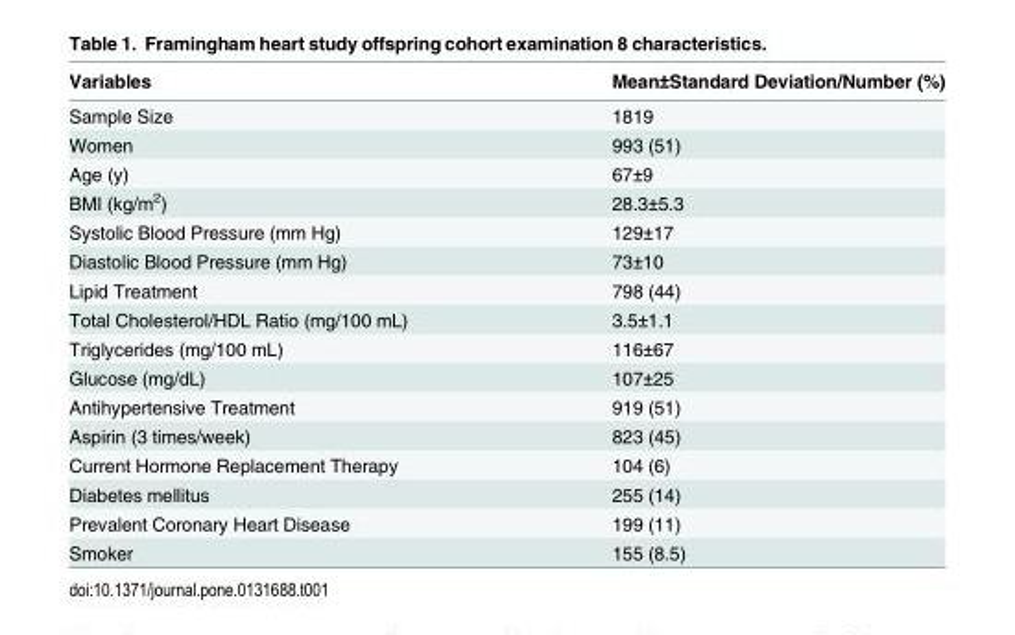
<table><thead><tr><td>Variables</td><td>Mean±Standard Deviation/Number (%)</td></tr></thead><tbody><tr><td>Sample Size</td><td>1819</td></tr><tr><td>Women</td><td>993 (51)</td></tr><tr><td>Age (y)</td><td>67±9</td></tr><tr><td>BMI (kg/m<sup>2</sup>)</td><td>28.3±5.3</td></tr><tr><td>Systolic Blood Pressure (mm Hg)</td><td>129±17</td></tr><tr><td>Diastolic Blood Pressure (mm Hg)</td><td>73±10</td></tr><tr><td>Lipid Treatment</td><td>798 (44)</td></tr><tr><td>Total Cholesterol/HDL Ratio (mg/100 mL)</td><td>3.5±1.1</td></tr><tr><td>Triglycerides (mg/100 mL)</td><td>116±67</td></tr><tr><td>Glucose (mg/dL)</td><td>107±25</td></tr><tr><td>Antihypertensive Treatment</td><td>919 (51)</td></tr><tr><td>Aspirin (3 times/week)</td><td>823 (45)</td></tr><tr><td>Current Hormone Replacement Therapy</td><td>104 (6)</td></tr><tr><td>Diabetes mellitus</td><td>255 (14)</td></tr><tr><td>Prevalent Coronary Heart Disease</td><td>199 (11)</td></tr><tr><td>Smoker</td><td>155 (8.5)</td></tr></tbody></table>